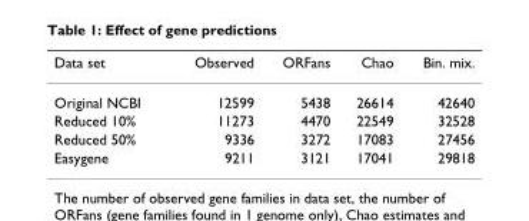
<table><thead><tr><td>Data set</td><td>Observed</td><td>ORFans</td><td>Chao</td><td>Bin. mix.</td></tr></thead><tbody><tr><td>Original NCBI</td><td>12599</td><td>5438</td><td>26614</td><td>42640</td></tr><tr><td>Reduced 10%</td><td>11273</td><td>4470</td><td>22549</td><td>32528</td></tr><tr><td>Reduced 50%</td><td>9336</td><td>3272</td><td>17083</td><td>27456</td></tr><tr><td>Easygene</td><td>9211</td><td>3121</td><td>17041</td><td>29818</td></tr></tbody></table>